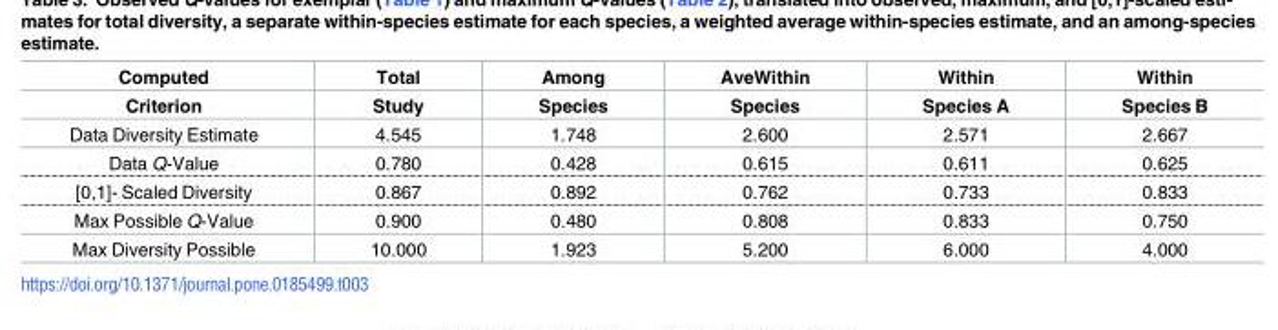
<table><thead><tr><td rowspan="2">Computed Criterion</td><td rowspan="2">Total Study</td><td rowspan="2">Among Species</td><td rowspan="2">AveWithin Species</td><td rowspan="2">Within Species A</td><td rowspan="2">Within Species B</td></tr><tr></tr></thead><tbody><tr><td>Data Diversity Estimate</td><td>4.545</td><td>1.748</td><td>2.600</td><td>2.571</td><td>2.667</td></tr><tr><td>Data Q-Value</td><td>0.780</td><td>0.428</td><td>0.615</td><td>0.611</td><td>0.625</td></tr><tr><td>[0,1]- Scaled Diversity</td><td>0.867</td><td>0.892</td><td>0.762</td><td>0.733</td><td>0.833</td></tr><tr><td>Max Possible Q-Value</td><td>0.900</td><td>0.480</td><td>0.808</td><td>0.833</td><td>0.750</td></tr><tr><td>Max Diversity Possible</td><td>10.000</td><td>1.923</td><td>5.200</td><td>6.000</td><td>4.000</td></tr></tbody></table>